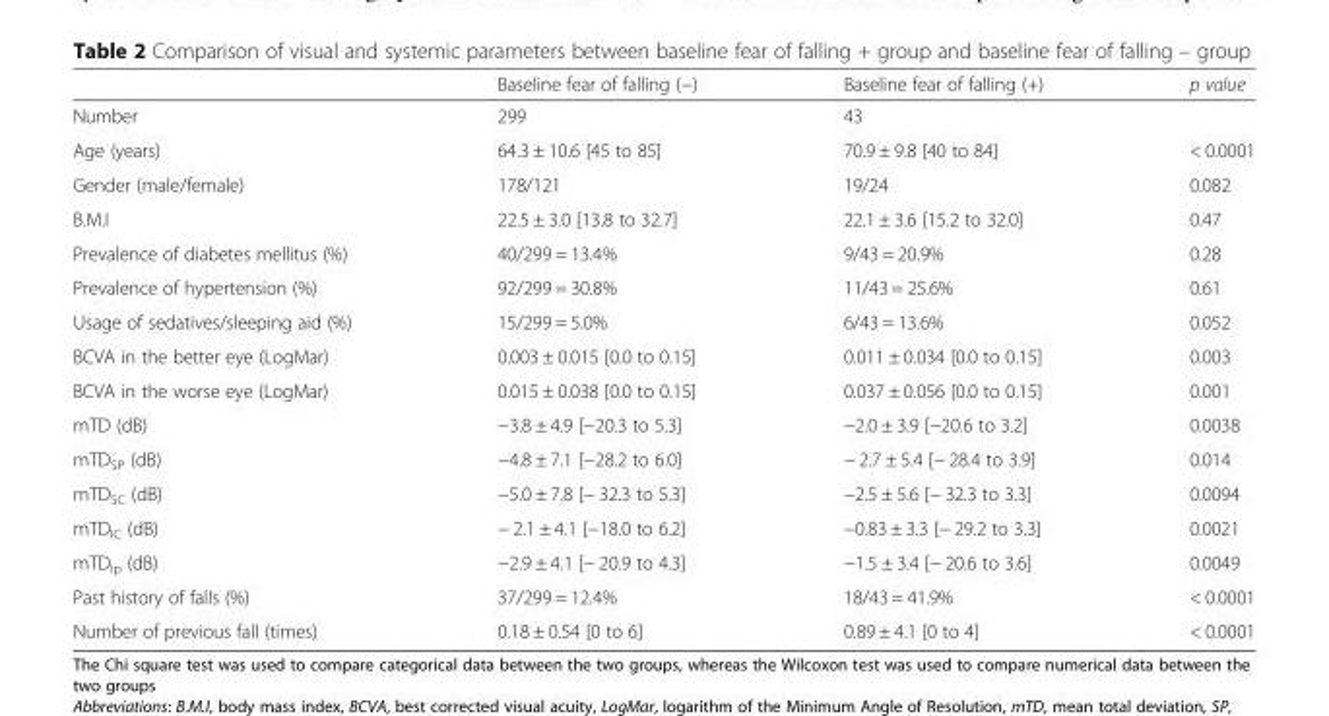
<table><thead><tr><td></td><td>Baseline fear of falling (−)</td><td>Baseline fear of falling (+)</td><td>p value</td></tr></thead><tbody><tr><td>Number</td><td>299</td><td>43</td><td></td></tr><tr><td>Age (years)</td><td>64.3 ± 10.6 [45 to 85]</td><td>70.9 ± 9.8 [40 to 84]</td><td>&lt; 0.0001</td></tr><tr><td>Gender (male/female)</td><td>178/121</td><td>19/24</td><td>0.082</td></tr><tr><td>B.M.I</td><td>22.5 ± 3.0 [13.8 to 32.7]</td><td>22.1 ± 3.6 [15.2 to 32.0]</td><td>0.47</td></tr><tr><td>Prevalence of diabetes mellitus (%)</td><td>40/299 = 13.4%</td><td>9/43 = 20.9%</td><td>0.28</td></tr><tr><td>Prevalence of hypertension (%)</td><td>92/299 = 30.8%</td><td>11/43 = 25.6%</td><td>0.61</td></tr><tr><td>Usage of sedatives/sleeping aid (%)</td><td>15/299 = 5.0%</td><td>6/43 = 13.6%</td><td>0.052</td></tr><tr><td>BCVA in the better eye (LogMar)</td><td>0.003 ± 0.015 [0.0 to 0.15]</td><td>0.011 ± 0.034 [0.0 to 0.15]</td><td>0.003</td></tr><tr><td>BCVA in the worse eye (LogMar)</td><td>0.015 ± 0.038 [0.0 to 0.15]</td><td>0.037 ± 0.056 [0.0 to 0.15]</td><td>0.001</td></tr><tr><td>mTD (dB)</td><td>−3.8 ± 4.9 [−20.3 to 5.3]</td><td>−2.0 ± 3.9 [−20.6 to 3.2]</td><td>0.0038</td></tr><tr><td>mTD<sub>SP</sub> (dB)</td><td>−4.8 ± 7.1 [−28.2 to 6.0]</td><td>− 2.7 ± 5.4 [− 28.4 to 3.9]</td><td>0.014</td></tr><tr><td>mTD<sub>SC</sub> (dB)</td><td>−5.0 ± 7.8 [− 32.3 to 5.3]</td><td>−2.5 ± 5.6 [− 32.3 to 3.3]</td><td>0.0094</td></tr><tr><td>mTD<sub>IC</sub> (dB)</td><td>− 2.1 ± 4.1 [−18.0 to 6.2]</td><td>−0.83 ± 3.3 [− 29.2 to 3.3]</td><td>0.0021</td></tr><tr><td>mTD<sub>ip</sub> (dB)</td><td>−2.9 ± 4.1 [− 20.9 to 4.3]</td><td>−1.5 ± 3.4 [− 20.6 to 3.6]</td><td>0.0049</td></tr><tr><td>Past history of falls (%)</td><td>37/299 = 12.4%</td><td>18/43 = 41.9%</td><td>&lt; 0.0001</td></tr><tr><td>Number of previous fall (times)</td><td>0.18 ± 0.54 [0 to 6]</td><td>0.89 ± 4.1 [0 to 4]</td><td>&lt; 0.0001</td></tr></tbody></table>